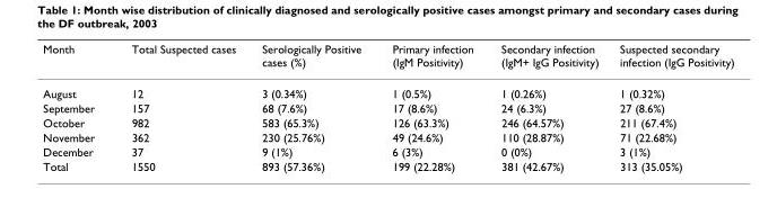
<table><thead><tr><td>Month</td><td>Total Suspected cases</td><td>Serologically Positive cases (%)</td><td>Primary infection (IgM Positivity)</td><td>Secondary infection (IgM+ IgG Positivity)</td><td>Suspected secondary infection (IgG Positivity)</td></tr></thead><tbody><tr><td>August</td><td>12</td><td>3 (0.34%)</td><td>1 (0.5%)</td><td>1 (0.26%)</td><td>1 (0.32%)</td></tr><tr><td>September</td><td>157</td><td>68 (7.6%)</td><td>17 (8.6%)</td><td>24 (6.3%)</td><td>27 (8.6%)</td></tr><tr><td>October</td><td>982</td><td>583 (65.3%)</td><td>126 (63.3%)</td><td>246 (64.57%)</td><td>211 (67.4%)</td></tr><tr><td>November</td><td>362</td><td>230 (25.76%)</td><td>49 (24.6%)</td><td>110 (28.87%)</td><td>71 (22.68%)</td></tr><tr><td>December</td><td>37</td><td>9 (1%)</td><td>6 (3%)</td><td>0 (0%)</td><td>3 (1%)</td></tr><tr><td>Total</td><td>1550</td><td>893 (57.36%)</td><td>199 (22.28%)</td><td>381 (42.67%)</td><td>313 (35.05%)</td></tr></tbody></table>